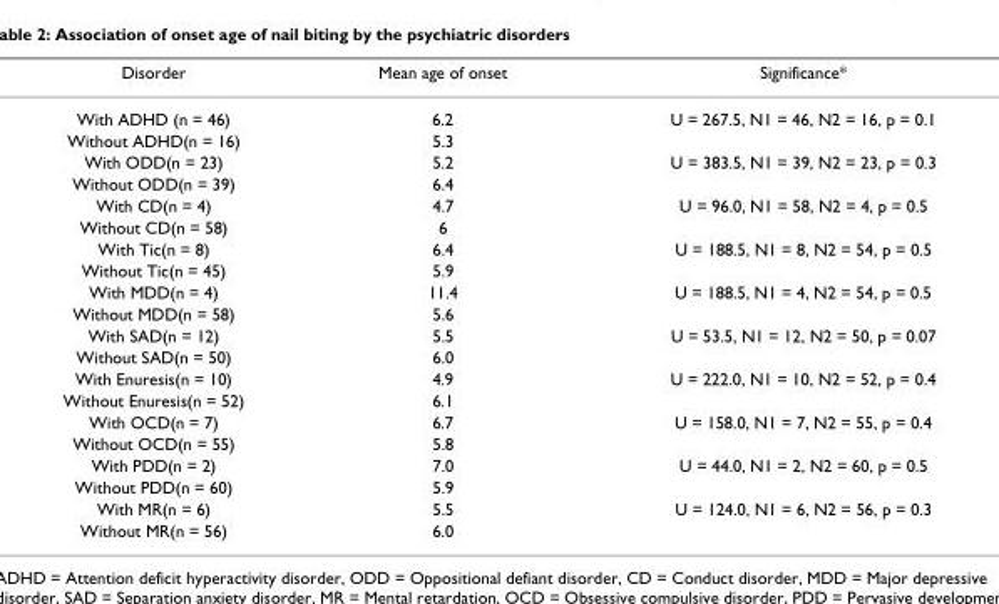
<table><thead><tr><td>Disorder</td><td>Mean age of onset</td><td>Significance*</td></tr></thead><tbody><tr><td>With ADHD (n = 46)</td><td>6.2</td><td>U = 267.5, N1 = 46, N2 = 16, p = 0.1</td></tr><tr><td>Without ADHD(n = 16)</td><td>5.3</td><td></td></tr><tr><td>With ODD(n = 23)</td><td>5.2</td><td>U = 383.5, N1 = 39, N2 = 23, p = 0.3</td></tr><tr><td>Without ODD(n = 39)</td><td>6.4</td><td></td></tr><tr><td>With CD(n = 4)</td><td>4.7</td><td>U = 96.0, N1 = 58, N2 = 4, p = 0.5</td></tr><tr><td>Without CD(n = 58)</td><td>6</td><td></td></tr><tr><td>With Tic(n = 8)</td><td>6.4</td><td>U = 188.5, N1 = 8, N2 = 54, p = 0.5</td></tr><tr><td>Without Tic(n = 45)</td><td>5.9</td><td></td></tr><tr><td>With MDD(n = 4)</td><td>11.4</td><td>U = 188.5, N1 = 4, N2 = 54, p = 0.5</td></tr><tr><td>Without MDD(n = 58)</td><td>5.6</td><td></td></tr><tr><td>With SAD(n = 12)</td><td>5.5</td><td>U = 53.5, N1 = 12, N2 = 50, p = 0.07</td></tr><tr><td>Without SAD(n = 50)</td><td>6.0</td><td></td></tr><tr><td>With Enuresis(n = 10)</td><td>4.9</td><td>U = 222.0, N1 = 10, N2 = 52, p = 0.4</td></tr><tr><td>Without Enuresis(n = 52)</td><td>6.1</td><td></td></tr><tr><td>With OCD(n = 7)</td><td>6.7</td><td>U = 158.0, N1 = 7, N2 = 55, p = 0.4</td></tr><tr><td>Without OCD(n = 55)</td><td>5.8</td><td></td></tr><tr><td>With PDD(n = 2)</td><td>7.0</td><td>U = 44.0, N1 = 2, N2 = 60, p = 0.5</td></tr><tr><td>Without PDD(n = 60)</td><td>5.9</td><td></td></tr><tr><td>With MR(n = 6)</td><td>5.5</td><td>U = 124.0, N1 = 6, N2 = 56, p = 0.3</td></tr><tr><td>Without MR(n = 56)</td><td>6.0</td><td></td></tr></tbody></table>